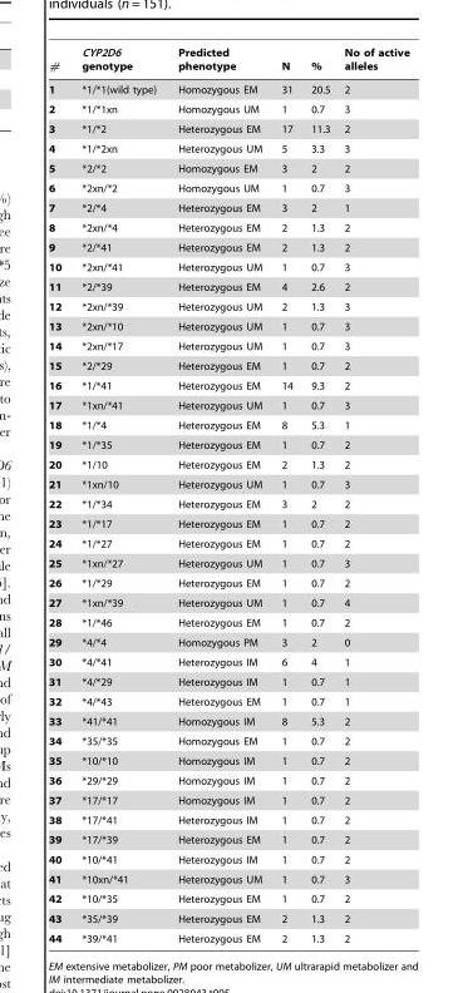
<table><thead><tr><td>#</td><td>CYP2D6 genotype</td><td>Predicted phenotype</td><td>N</td><td>%</td><td>No of active alleles</td></tr></thead><tbody><tr><td>1</td><td>*1/*1(wild type)</td><td>Homozygous EM</td><td>31</td><td>20.5</td><td>2</td></tr><tr><td>2</td><td>*1/*1xn</td><td>Homozygous UM</td><td>1</td><td>0.7</td><td>3</td></tr><tr><td>3</td><td>*1/*2</td><td>Heterozygous EM</td><td>17</td><td>11.3</td><td>2</td></tr><tr><td>4</td><td>*1/*2xn</td><td>Heterozygous UM</td><td>5</td><td>3.3</td><td>3</td></tr><tr><td>5</td><td>*2/*2</td><td>Homozygous EM</td><td>3</td><td>2</td><td>2</td></tr><tr><td>6</td><td>*2xn/*2</td><td>Homozygous UM</td><td>1</td><td>0.7</td><td>3</td></tr><tr><td>7</td><td>*2/*4</td><td>Heterozygous EM</td><td>3</td><td>2</td><td>1</td></tr><tr><td>8</td><td>*2xn/*4</td><td>Heterozygous EM</td><td>2</td><td>1.3</td><td>2</td></tr><tr><td>9</td><td>*2/*41</td><td>Heterozygous EM</td><td>2</td><td>1.3</td><td>2</td></tr><tr><td>10</td><td>*2xn/*41</td><td>Heterozygous UM</td><td>1</td><td>0.7</td><td>3</td></tr><tr><td>11</td><td>*2/*39</td><td>Heterozygous EM</td><td>4</td><td>2.6</td><td>2</td></tr><tr><td>12</td><td>*2xn/*39</td><td>Heterozygous UM</td><td>2</td><td>1.3</td><td>3</td></tr><tr><td>13</td><td>*2xn/*10</td><td>Heterozygous UM</td><td>1</td><td>0.7</td><td>3</td></tr><tr><td>14</td><td>*2xn/*17</td><td>Heterozygous UM</td><td>1</td><td>0.7</td><td>3</td></tr><tr><td>15</td><td>*2/*29</td><td>Heterozygous EM</td><td>1</td><td>0.7</td><td>2</td></tr><tr><td>16</td><td>*1/*41</td><td>Heterozygous EM</td><td>14</td><td>9.3</td><td>2</td></tr><tr><td>17</td><td>*1xn/*41</td><td>Heterozygous UM</td><td>1</td><td>0.7</td><td>3</td></tr><tr><td>18</td><td>*1/*4</td><td>Heterozygous EM</td><td>8</td><td>5.3</td><td>1</td></tr><tr><td>19</td><td>*1/*35</td><td>Heterozygous EM</td><td>1</td><td>0.7</td><td>2</td></tr><tr><td>20</td><td>*1/10</td><td>Heterozygous EM</td><td>2</td><td>1.3</td><td>2</td></tr><tr><td>21</td><td>*1xn/10</td><td>Heterozygous UM</td><td>1</td><td>0.7</td><td>3</td></tr><tr><td>22</td><td>*1/*34</td><td>Heterozygous EM</td><td>3</td><td>2</td><td>2</td></tr><tr><td>23</td><td>*1/*17</td><td>Heterozygous EM</td><td>1</td><td>0.7</td><td>2</td></tr><tr><td>24</td><td>*1/*27</td><td>Heterozygous EM</td><td>1</td><td>0.7</td><td>2</td></tr><tr><td>25</td><td>*1xn/*27</td><td>Heterozygous UM</td><td>1</td><td>0.7</td><td>3</td></tr><tr><td>26</td><td>*1/*29</td><td>Heterozygous EM</td><td>1</td><td>0.7</td><td>2</td></tr><tr><td>27</td><td>*1xn/*39</td><td>Heterozygous UM</td><td>1</td><td>0.7</td><td>4</td></tr><tr><td>28</td><td>*1/*46</td><td>Heterozygous EM</td><td>1</td><td>0.7</td><td>2</td></tr><tr><td>29</td><td>*4/*4</td><td>Homozygous PM</td><td>3</td><td>2</td><td>0</td></tr><tr><td>30</td><td>*4/*41</td><td>Heterozygous IM</td><td>6</td><td>4</td><td>1</td></tr><tr><td>31</td><td>*4/*29</td><td>Heterozygous IM</td><td>1</td><td>0.7</td><td>1</td></tr><tr><td>32</td><td>*4/*43</td><td>Heterozygous EM</td><td>1</td><td>0.7</td><td>1</td></tr><tr><td>33</td><td>*41/*41</td><td>Homozygous IM</td><td>8</td><td>5.3</td><td>2</td></tr><tr><td>34</td><td>*35/*35</td><td>Homozygous EM</td><td>1</td><td>0.7</td><td>2</td></tr><tr><td>35</td><td>*10/*10</td><td>Homozygous IM</td><td>1</td><td>0.7</td><td>2</td></tr><tr><td>36</td><td>*29/*29</td><td>Homozygous IM</td><td>1</td><td>0.7</td><td>2</td></tr><tr><td>37</td><td>*17/*17</td><td>Homozygous IM</td><td>1</td><td>0.7</td><td>2</td></tr><tr><td>38</td><td>*17/*41</td><td>Heterozygous IM</td><td>1</td><td>0.7</td><td>2</td></tr><tr><td>39</td><td>*17/*39</td><td>Heterozygous EM</td><td>1</td><td>0.7</td><td>2</td></tr><tr><td>40</td><td>*10/*41</td><td>Heterozygous IM</td><td>1</td><td>0.7</td><td>2</td></tr><tr><td>41</td><td>*10xn/*41</td><td>Heterozygous UM</td><td>1</td><td>0.7</td><td>3</td></tr><tr><td>42</td><td>*10/*35</td><td>Heterozygous EM</td><td>1</td><td>0.7</td><td>2</td></tr><tr><td>43</td><td>*35/*39</td><td>Heterozygous EM</td><td>2</td><td>1.3</td><td>2</td></tr><tr><td>44</td><td>*39/*41</td><td>Heterozygous EM</td><td>2</td><td>1.3</td><td>2</td></tr></tbody></table>